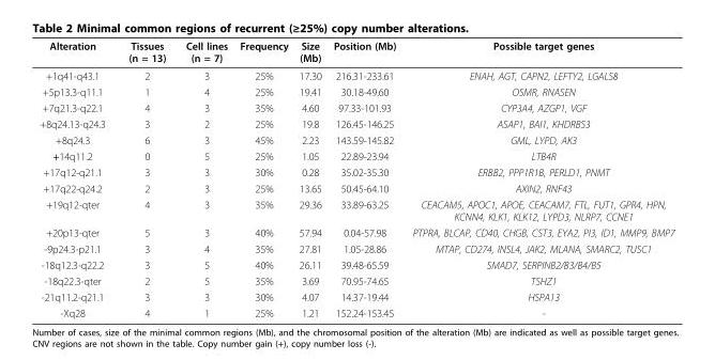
<table><thead><tr><td>Alteration</td><td>Tissues (n = 13)</td><td>Cell lines (n = 7)</td><td>Frequency</td><td>Size (Mb)</td><td>Position (Mb)</td><td>Possible target genes</td></tr></thead><tbody><tr><td>+1q41-q43.1</td><td>2</td><td>3</td><td>25%</td><td>17.30</td><td>216.31-233.61</td><td>ENAH, AGT, CAPN2, LEFTY2, LGALS8</td></tr><tr><td>+5p13.3-q11.1</td><td>1</td><td>4</td><td>25%</td><td>19.41</td><td>30.18-49.60</td><td>OSMR, RNASEN</td></tr><tr><td>+7q21.3-q22.1</td><td>4</td><td>3</td><td>35%</td><td>4.60</td><td>97.33-101.93</td><td>CYP3A4, AZGP1, VGF</td></tr><tr><td>+8q24.13-q24.3</td><td>3</td><td>2</td><td>25%</td><td>19.8</td><td>126.45-146.25</td><td>ASAP1, BAI1, KHDRBS3</td></tr><tr><td>+8q24.3</td><td>6</td><td>3</td><td>45%</td><td>2.23</td><td>143.59-145.82</td><td>GML, LYPD, AK3</td></tr><tr><td>+14q11.2</td><td>0</td><td>5</td><td>25%</td><td>1.05</td><td>22.89-23.94</td><td>LTB4R</td></tr><tr><td>+17q12-q21.1</td><td>3</td><td>3</td><td>30%</td><td>0.28</td><td>35.02-35.30</td><td>ERBB2, PPP1R1B, PERLD1, PNMT</td></tr><tr><td>+17q22-q24.2</td><td>2</td><td>3</td><td>25%</td><td>13.65</td><td>50.45-64.10</td><td>AXIN2, RNF43</td></tr><tr><td>+19q12-qter</td><td>4</td><td>3</td><td>35%</td><td>29.36</td><td>33.89-63.25</td><td>CEACAM5, APOC1, APOE, CEACAM7, FTL, FUT1, GPR4, HPN, KCNN4, KLK1, KLK12, LYPD3, NLRP7, CCNE1</td></tr><tr><td>+20p13-qter</td><td>5</td><td>3</td><td>40%</td><td>57.94</td><td>0.04-57.98</td><td>PTPRA, BLCAP, CD40, CHGB, CST3, EYA2, PI3, ID1, MMP9, BMP7</td></tr><tr><td>-9p24.3-p21.1</td><td>3</td><td>4</td><td>35%</td><td>27.81</td><td>1.05-28.86</td><td>MTAP, CD274, INSL4, JAK2, MLANA, SMARC2, TUSC1</td></tr><tr><td>-18q12.3-q22.2</td><td>3</td><td>5</td><td>40%</td><td>26.11</td><td>39.48-65.59</td><td>SMAD7, SERPINB2/B3/B4/B5</td></tr><tr><td>-18q22.3-qter</td><td>2</td><td>5</td><td>35%</td><td>3.69</td><td>70.95-74.65</td><td>TSHZ1</td></tr><tr><td>-21q11.2-q21.1</td><td>3</td><td>3</td><td>30%</td><td>4.07</td><td>14.37-19.44</td><td>HSPA13</td></tr><tr><td>-Xq28</td><td>4</td><td>1</td><td>25%</td><td>1.21</td><td>152.24-153.45</td><td>-</td></tr></tbody></table>